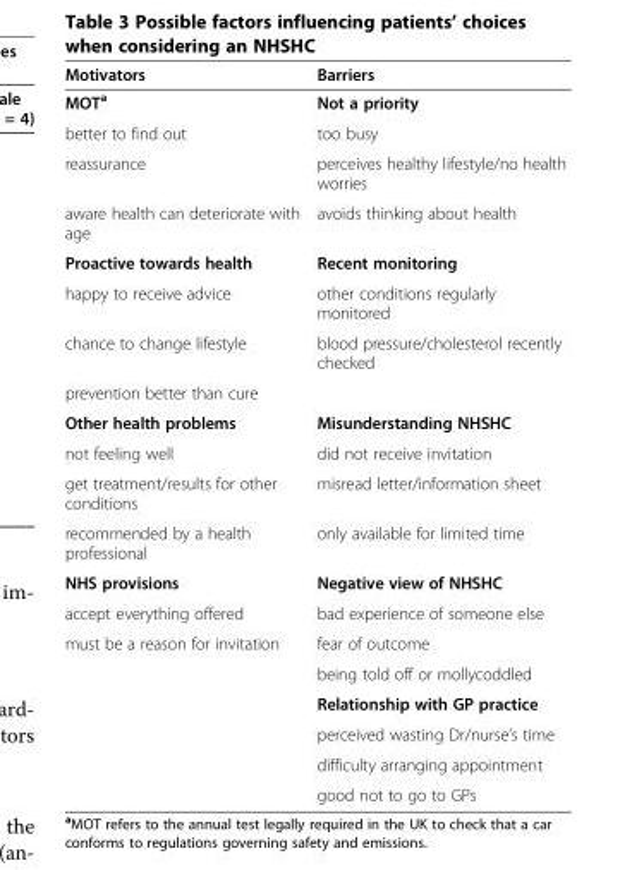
<table><thead><tr><td>Motivators</td><td>Barriers</td></tr></thead><tbody><tr><td>MOT<sup>a</sup></td><td>Not a priority</td></tr><tr><td>better to find out</td><td>too busy</td></tr><tr><td>reassurance</td><td>perceives healthy lifestyle/no health worries</td></tr><tr><td>aware health can deteriorate with age</td><td>avoids thinking about health</td></tr><tr><td>Proactive towards health</td><td>Recent monitoring</td></tr><tr><td>happy to receive advice</td><td>other conditions regularly monitored</td></tr><tr><td>chance to change lifestyle</td><td>blood pressure/cholesterol recently checked</td></tr><tr><td colspan="2">prevention better than cure</td></tr><tr><td>Other health problems</td><td>Misunderstanding NHSHC</td></tr><tr><td>not feeling well</td><td>did not receive invitation</td></tr><tr><td>get treatment/results for other conditions</td><td>misread letter/information sheet</td></tr><tr><td>recommended by a health professional</td><td>only available for limited time</td></tr><tr><td>NHS provisions</td><td>Negative view of NHSHC</td></tr><tr><td>accept everything offered</td><td>bad experience of someone else</td></tr><tr><td rowspan="6">must be a reason for invitation</td><td>fear of outcome</td></tr><tr><td>being told off or mollycoddled</td></tr><tr><td>Relationship with GP practice</td></tr><tr><td>perceived wasting Dr/nurse’s time</td></tr><tr><td>difficulty arranging appointment</td></tr><tr><td>good not to go to GPs</td></tr></tbody></table>